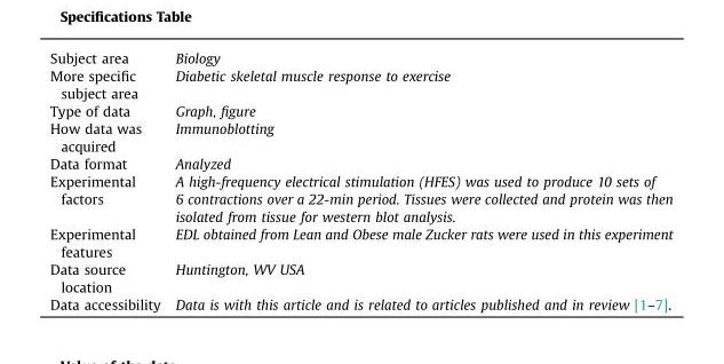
<table><tbody><tr><td>Subject area</td><td>Biology</td></tr><tr><td>More specific subject area</td><td>Diabetic skeletal muscle response to exercise</td></tr><tr><td>Type of data</td><td>Graph, figure</td></tr><tr><td>How data was acquired</td><td>Immunoblotting</td></tr><tr><td>Data format</td><td>Analyzed</td></tr><tr><td>Experimental factors</td><td>A high-frequency electrical stimulation (HFES) was used to produce 10 sets of 6 contractions over a 22-min period. Tissues were collected and protein was then isolated from tissue for western blot analysis.</td></tr><tr><td>Experimental features</td><td>EDL obtained from Lean and Obese male Zucker rats were used in this experiment</td></tr><tr><td>Data source location</td><td>Huntington, WV USA</td></tr><tr><td>Data accessibility</td><td>Data is with this article and is related to articles published and in review [1–7].</td></tr></tbody></table>